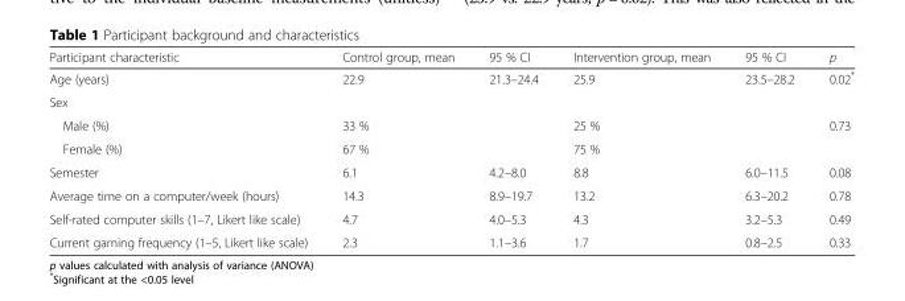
<table><thead><tr><td>Participant characteristic</td><td>Control group, mean</td><td>95 % CI</td><td>Intervention group, mean</td><td>95 % CI</td><td>p</td></tr></thead><tbody><tr><td>Age (years)</td><td>22.9</td><td>21.3–24.4</td><td>25.9</td><td>23.5–28.2</td><td>0.02*</td></tr><tr><td colspan="6">Sex</td></tr><tr><td>Male (%)</td><td>33 %</td><td></td><td>25 %</td><td></td><td rowspan="2">0.73</td></tr><tr><td>Female (%)</td><td>67 %</td><td></td><td>75 %</td><td></td></tr><tr><td>Semester</td><td>6.1</td><td>4.2–8.0</td><td>8.8</td><td>6.0–11.5</td><td>0.08</td></tr><tr><td>Average time on a computer/week (hours)</td><td>14.3</td><td>8.9–19.7</td><td>13.2</td><td>6.3–20.2</td><td>0.78</td></tr><tr><td>Self-rated computer skills (1–7, Likert like scale)</td><td>4.7</td><td>4.0–5.3</td><td>4.3</td><td>3.2–5.3</td><td>0.49</td></tr><tr><td>Current gaming frequency (1–5, Likert like scale)</td><td>2.3</td><td>1.1–3.6</td><td>1.7</td><td>0.8–2.5</td><td>0.33</td></tr></tbody></table>